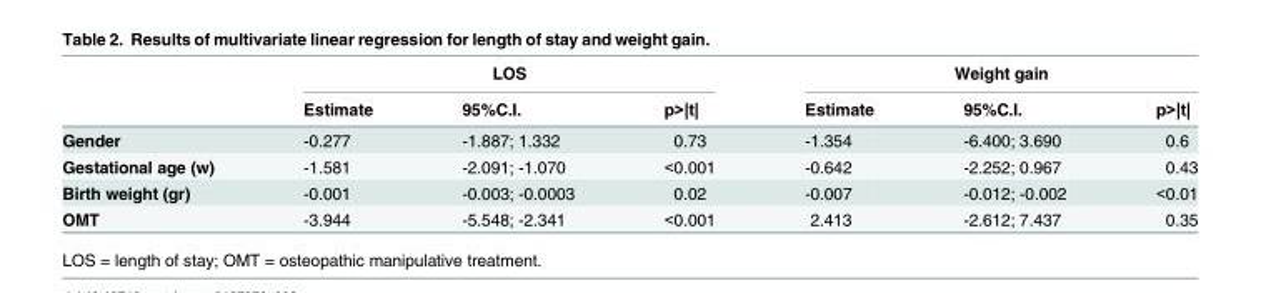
<table><thead><tr><td rowspan="2"></td><td colspan="3">LOS</td><td colspan="3">Weight gain</td></tr><tr><td>Estimate</td><td>95%C.I.</td><td>p&gt;|t|</td><td>Estimate</td><td>95%C.I.</td><td>p&gt;|t|</td></tr></thead><tbody><tr><td>Gender</td><td>-0.277</td><td>-1.887; 1.332</td><td>0.73</td><td>-1.354</td><td>-6.400; 3.690</td><td>0.6</td></tr><tr><td>Gestational age (w)</td><td>-1.581</td><td>-2.091; -1.070</td><td>&lt;0.001</td><td>-0.642</td><td>-2.252; 0.967</td><td>0.43</td></tr><tr><td>Birth weight (gr)</td><td>-0.001</td><td>-0.003; -0.0003</td><td>0.02</td><td>-0.007</td><td>-0.012; -0.002</td><td>&lt;0.01</td></tr><tr><td>OMT</td><td>-3.944</td><td>-5.548; -2.341</td><td>&lt;0.001</td><td>2.413</td><td>-2.612; 7.437</td><td>0.35</td></tr></tbody></table>